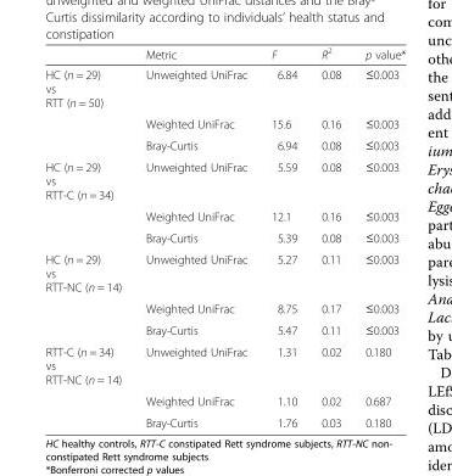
<table><thead><tr><td></td><td>Metric</td><td>F</td><td>R<sup>2</sup></td><td>p value*</td></tr></thead><tbody><tr><td rowspan="3">HC (n = 29) vs RTT (n = 50)</td><td>Unweighted UniFrac</td><td>6.84</td><td>0.08</td><td>≤0.003</td></tr><tr><td>Weighted UniFrac</td><td>15.6</td><td>0.16</td><td>≤0.003</td></tr><tr><td>Bray-Curtis</td><td>6.94</td><td>0.08</td><td>≤0.003</td></tr><tr><td rowspan="3">HC (n = 29) vs RTT-C (n = 34)</td><td>Unweighted UniFrac</td><td>5.59</td><td>0.08</td><td>≤0.003</td></tr><tr><td>Weighted UniFrac</td><td>12.1</td><td>0.16</td><td>≤0.003</td></tr><tr><td>Bray-Curtis</td><td>5.39</td><td>0.08</td><td>≤0.003</td></tr><tr><td rowspan="3">HC (n = 29) vs RTT-NC (n = 14)</td><td>Unweighted UniFrac</td><td>5.27</td><td>0.11</td><td>≤0.003</td></tr><tr><td>Weighted UniFrac</td><td>8.75</td><td>0.17</td><td>≤0.003</td></tr><tr><td>Bray-Curtis</td><td>5.47</td><td>0.11</td><td>≤0.003</td></tr><tr><td rowspan="3">RTT-C (n = 34) vs RTT-NC (n = 14)</td><td>Unweighted UniFrac</td><td>1.31</td><td>0.02</td><td>0.180</td></tr><tr><td>Weighted UniFrac</td><td>1.10</td><td>0.02</td><td>0.687</td></tr><tr><td>Bray-Curtis</td><td>1.76</td><td>0.03</td><td>0.180</td></tr></tbody></table>